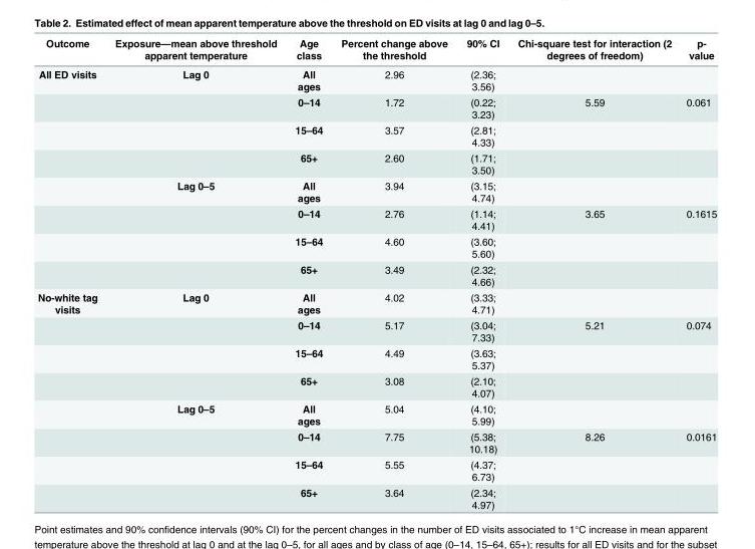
<table><thead><tr><td>Outcome</td><td>Exposure—mean above threshold apparent temperature</td><td>Age class</td><td>Percent change above the threshold</td><td>90% CI</td><td>Chi-square test for interaction (2 degrees of freedom)</td><td>p- value</td></tr></thead><tbody><tr><td rowspan="8">All ED visits</td><td>Lag 0</td><td>All ages</td><td>2.96</td><td>(2.36; 3.56)</td><td colspan="2"></td></tr><tr><td></td><td>0–14</td><td>1.72</td><td>(0.22; 3.23)</td><td>5.59</td><td>0.061</td></tr><tr><td></td><td>15–64</td><td>3.57</td><td>(2.81; 4.33)</td><td></td><td></td></tr><tr><td></td><td>65+</td><td>2.60</td><td>(1.71; 3.50)</td><td></td><td></td></tr><tr><td>Lag 0–5</td><td>All ages</td><td>3.94</td><td>(3.15; 4.74)</td><td colspan="2"></td></tr><tr><td></td><td>0–14</td><td>2.76</td><td>(1.14; 4.41)</td><td>3.65</td><td>0.1615</td></tr><tr><td></td><td>15–64</td><td>4.60</td><td>(3.60; 5.60)</td><td></td><td></td></tr><tr><td></td><td>65+</td><td>3.49</td><td>(2.32; 4.66)</td><td></td><td></td></tr><tr><td rowspan="8">No-white tag visits</td><td>Lag 0</td><td>All ages</td><td>4.02</td><td>(3.33; 4.71)</td><td colspan="2"></td></tr><tr><td></td><td>0–14</td><td>5.17</td><td>(3.04; 7.33)</td><td>5.21</td><td>0.074</td></tr><tr><td></td><td>15–64</td><td>4.49</td><td>(3.63; 5.37)</td><td></td><td></td></tr><tr><td></td><td>65+</td><td>3.08</td><td>(2.10; 4.07)</td><td></td><td></td></tr><tr><td>Lag 0–5</td><td>All ages</td><td>5.04</td><td>(4.10; 5.99)</td><td colspan="2"></td></tr><tr><td></td><td>0–14</td><td>7.75</td><td>(5.38; 10.18)</td><td>8.26</td><td>0.0161</td></tr><tr><td></td><td>15–64</td><td>5.55</td><td>(4.37; 6.73)</td><td></td><td></td></tr><tr><td></td><td>65+</td><td>3.64</td><td>(2.34; 4.97)</td><td></td><td></td></tr></tbody></table>